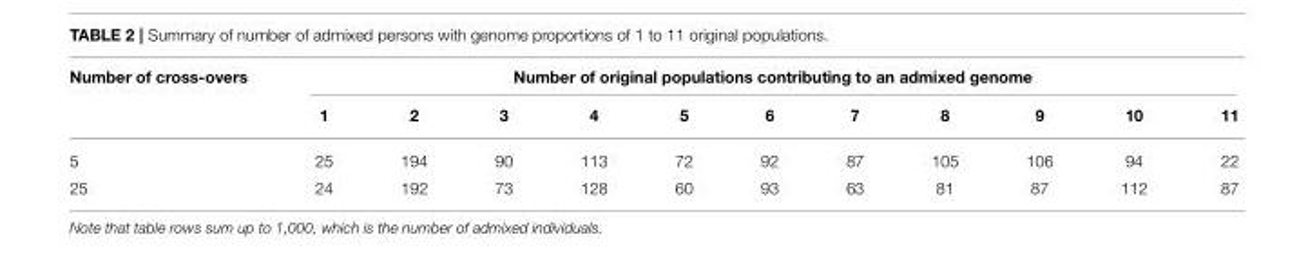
<table><thead><tr><td rowspan="2">Number of cross-overs</td><td colspan="11">Number of original populations contributing to an admixed genome</td></tr><tr><td>1</td><td>2</td><td>3</td><td>4</td><td>5</td><td>6</td><td>7</td><td>8</td><td>9</td><td>10</td><td>11</td></tr></thead><tbody><tr><td>5</td><td>25</td><td>194</td><td>90</td><td>113</td><td>72</td><td>92</td><td>87</td><td>105</td><td>106</td><td>94</td><td>22</td></tr><tr><td>25</td><td>24</td><td>192</td><td>73</td><td>128</td><td>60</td><td>93</td><td>63</td><td>81</td><td>87</td><td>112</td><td>87</td></tr></tbody></table>